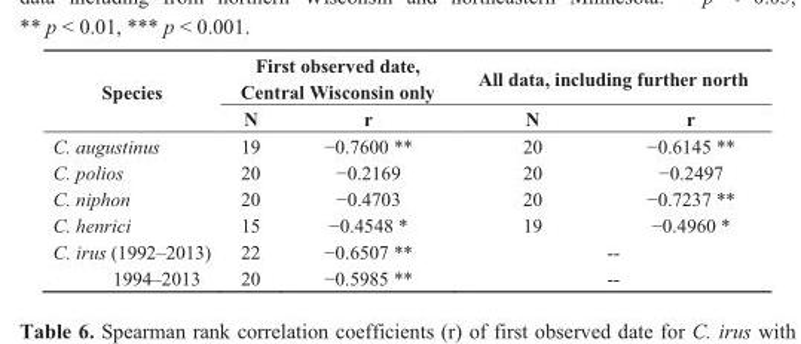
<table><thead><tr><td rowspan="2">Species</td><td colspan="2">First observed date, Central Wisconsin only</td><td colspan="2">All data, including further north</td></tr><tr><td>N</td><td>r</td><td>N</td><td>r</td></tr></thead><tbody><tr><td>C. augustinus</td><td>19</td><td>−0.7600 **</td><td>20</td><td>−0.6145 **</td></tr><tr><td>C. polios</td><td>20</td><td>−0.2169</td><td>20</td><td>−0.2497</td></tr><tr><td>C. niphon</td><td>20</td><td>−0.4703</td><td>20</td><td>−0.7237 **</td></tr><tr><td>C. henrici</td><td>15</td><td>−0.4548 *</td><td>19</td><td>−0.4960 *</td></tr><tr><td>C. irus (1992–2013)</td><td>22</td><td>−0.6507 **</td><td colspan="2">--</td></tr><tr><td>1994–2013</td><td>20</td><td>−0.5985 **</td><td colspan="2">--</td></tr></tbody></table>